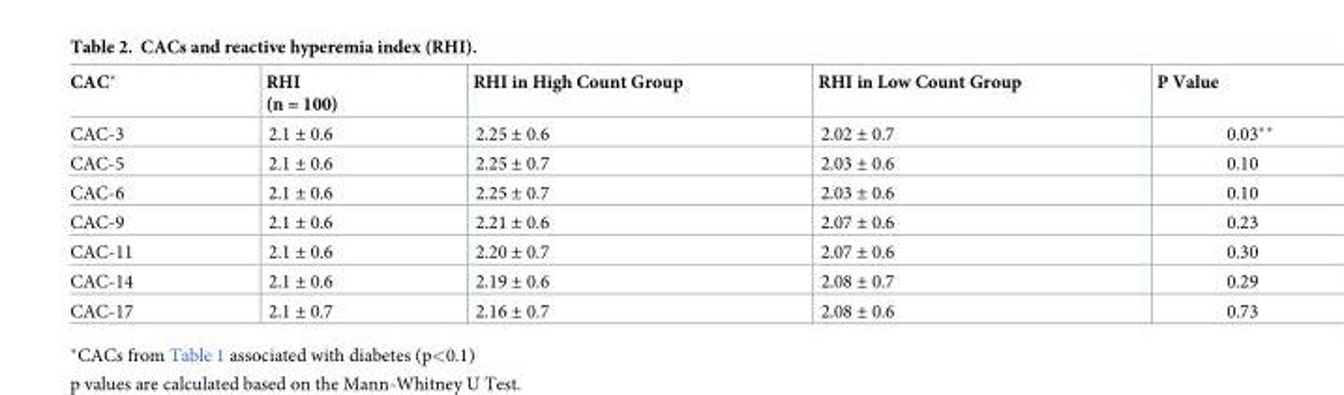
<table><thead><tr><td>CAC*</td><td>RHI (n = 100)</td><td>RHI in High Count Group</td><td>RHI in Low Count Group</td><td>P Value</td></tr></thead><tbody><tr><td>CAC-3</td><td>2.1 ± 0.6</td><td>2.25 ± 0.6</td><td>2.02 ± 0.7</td><td>0.03**</td></tr><tr><td>CAC-5</td><td>2.1 ± 0.6</td><td>2.25 ± 0.7</td><td>2.03 ± 0.6</td><td>0.10</td></tr><tr><td>CAC-6</td><td>2.1 ± 0.6</td><td>2.25 ± 0.7</td><td>2.03 ± 0.6</td><td>0.10</td></tr><tr><td>CAC-9</td><td>2.1 ± 0.6</td><td>2.21 ± 0.6</td><td>2.07 ± 0.6</td><td>0.23</td></tr><tr><td>CAC-11</td><td>2.1 ± 0.6</td><td>2.20 ± 0.7</td><td>2.07 ± 0.6</td><td>0.30</td></tr><tr><td>CAC-14</td><td>2.1 ± 0.6</td><td>2.19 ± 0.6</td><td>2.08 ± 0.7</td><td>0.29</td></tr><tr><td>CAC-17</td><td>2.1 ± 0.7</td><td>2.16 ± 0.7</td><td>2.08 ± 0.6</td><td>0.73</td></tr></tbody></table>